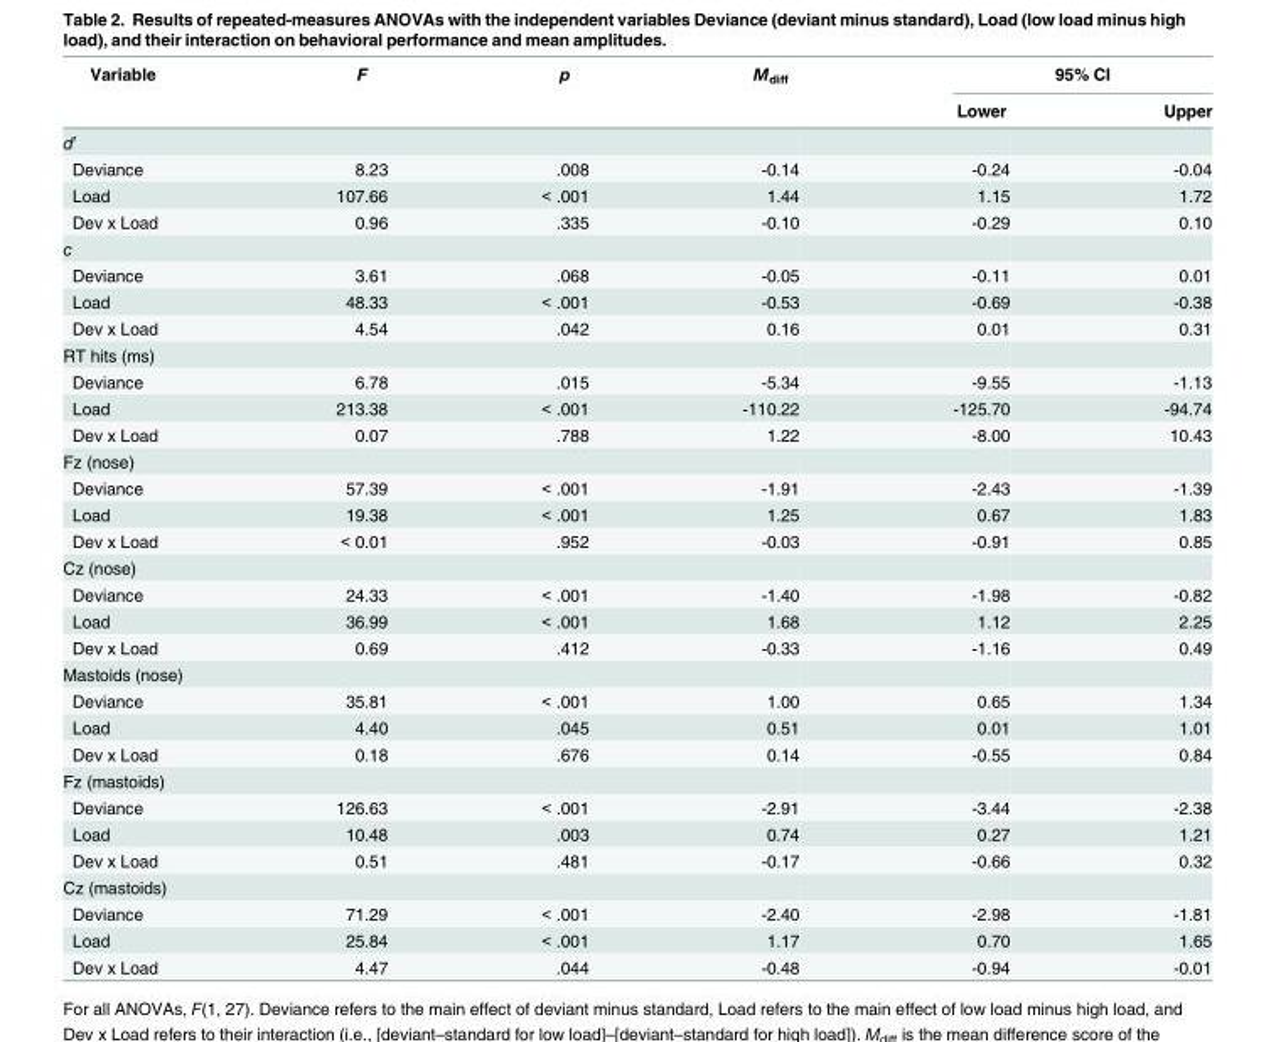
<table><thead><tr><td rowspan="2">Variable</td><td rowspan="2">F</td><td rowspan="2">p</td><td rowspan="2">M<sub>diff</sub></td><td colspan="2">95% CI</td></tr><tr><td>Lower</td><td>Upper</td></tr></thead><tbody><tr><td colspan="6">d′</td></tr><tr><td>Deviance</td><td>8.23</td><td>.008</td><td>-0.14</td><td>-0.24</td><td>-0.04</td></tr><tr><td>Load</td><td>107.66</td><td>&lt; .001</td><td>1.44</td><td>1.15</td><td>1.72</td></tr><tr><td>Dev x Load</td><td>0.96</td><td>.335</td><td>-0.10</td><td>-0.29</td><td>0.10</td></tr><tr><td colspan="6">c</td></tr><tr><td>Deviance</td><td>3.61</td><td>.068</td><td>-0.05</td><td>-0.11</td><td>0.01</td></tr><tr><td>Load</td><td>48.33</td><td>&lt; .001</td><td>-0.53</td><td>-0.69</td><td>-0.38</td></tr><tr><td>Dev x Load</td><td>4.54</td><td>.042</td><td>0.16</td><td>0.01</td><td>0.31</td></tr><tr><td colspan="6">RT hits (ms)</td></tr><tr><td>Deviance</td><td>6.78</td><td>.015</td><td>-5.34</td><td>-9.55</td><td>-1.13</td></tr><tr><td>Load</td><td>213.38</td><td>&lt; .001</td><td>-110.22</td><td>-125.70</td><td>-94.74</td></tr><tr><td>Dev x Load</td><td>0.07</td><td>.788</td><td>1.22</td><td>-8.00</td><td>10.43</td></tr><tr><td colspan="6">Fz (nose)</td></tr><tr><td>Deviance</td><td>57.39</td><td>&lt; .001</td><td>-1.91</td><td>-2.43</td><td>-1.39</td></tr><tr><td>Load</td><td>19.38</td><td>&lt; .001</td><td>1.25</td><td>0.67</td><td>1.83</td></tr><tr><td>Dev x Load</td><td>&lt; 0.01</td><td>.952</td><td>-0.03</td><td>-0.91</td><td>0.85</td></tr><tr><td colspan="6">Cz (nose)</td></tr><tr><td>Deviance</td><td>24.33</td><td>&lt; .001</td><td>-1.40</td><td>-1.98</td><td>-0.82</td></tr><tr><td>Load</td><td>36.99</td><td>&lt; .001</td><td>1.68</td><td>1.12</td><td>2.25</td></tr><tr><td>Dev x Load</td><td>0.69</td><td>.412</td><td>-0.33</td><td>-1.16</td><td>0.49</td></tr><tr><td colspan="6">Mastoids (nose)</td></tr><tr><td>Deviance</td><td>35.81</td><td>&lt; .001</td><td>1.00</td><td>0.65</td><td>1.34</td></tr><tr><td>Load</td><td>4.40</td><td>.045</td><td>0.51</td><td>0.01</td><td>1.01</td></tr><tr><td>Dev x Load</td><td>0.18</td><td>.676</td><td>0.14</td><td>-0.55</td><td>0.84</td></tr><tr><td colspan="6">Fz (mastoids)</td></tr><tr><td>Deviance</td><td>126.63</td><td>&lt; .001</td><td>-2.91</td><td>-3.44</td><td>-2.38</td></tr><tr><td>Load</td><td>10.48</td><td>.003</td><td>0.74</td><td>0.27</td><td>1.21</td></tr><tr><td>Dev x Load</td><td>0.51</td><td>.481</td><td>-0.17</td><td>-0.66</td><td>0.32</td></tr><tr><td colspan="6">Cz (mastoids)</td></tr><tr><td>Deviance</td><td>71.29</td><td>&lt; .001</td><td>-2.40</td><td>-2.98</td><td>-1.81</td></tr><tr><td>Load</td><td>25.84</td><td>&lt; .001</td><td>1.17</td><td>0.70</td><td>1.65</td></tr><tr><td>Dev x Load</td><td>4.47</td><td>.044</td><td>-0.48</td><td>-0.94</td><td>-0.01</td></tr></tbody></table>